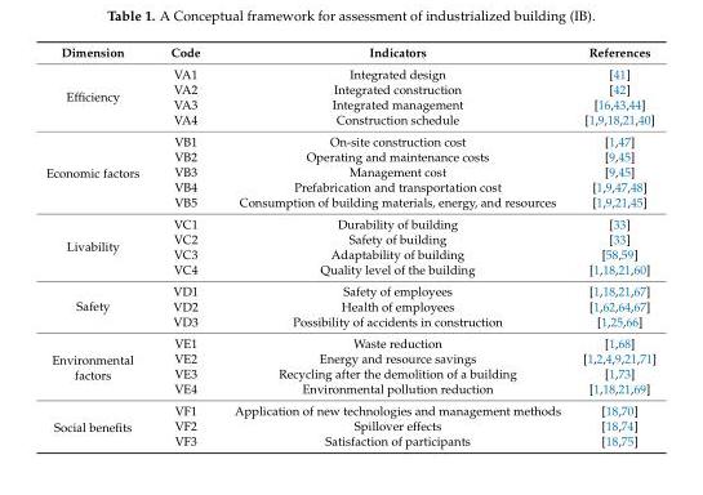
<table><thead><tr><td>Dimension</td><td>Code</td><td>Indicators</td><td>References</td></tr></thead><tbody><tr><td rowspan="4">Efficiency</td><td>VA1</td><td>Integrated design</td><td>[41]</td></tr><tr><td>VA2</td><td>Integrated construction</td><td>[42]</td></tr><tr><td>VA3</td><td>Integrated management</td><td>[16,43,44]</td></tr><tr><td>VA4</td><td>Construction schedule</td><td>[1,9,18,21,40]</td></tr><tr><td rowspan="5">Economic factors</td><td>VB1</td><td>On-site construction cost</td><td>[1,47]</td></tr><tr><td>VB2</td><td>Operating and maintenance costs</td><td>[9,45]</td></tr><tr><td>VB3</td><td>Management cost</td><td>[9,45]</td></tr><tr><td>VB4</td><td>Prefabrication and transportation cost</td><td>[1,9,47,48]</td></tr><tr><td>VB5</td><td>Consumption of building materials, energy, and resources</td><td>[1,9,21,45]</td></tr><tr><td rowspan="4">Livability</td><td>VC1</td><td>Durability of building</td><td>[33]</td></tr><tr><td>VC2</td><td>Safety of building</td><td>[33]</td></tr><tr><td>VC3</td><td>Adaptability of building</td><td>[58,59]</td></tr><tr><td>VC4</td><td>Quality level of the building</td><td>[1,18,21,60]</td></tr><tr><td rowspan="3">Safety</td><td>VD1</td><td>Safety of employees</td><td>[1,18,21,67]</td></tr><tr><td>VD2</td><td>Health of employees</td><td>[1,62,64,67]</td></tr><tr><td>VD3</td><td>Possibility of accidents in construction</td><td>[1,25,66]</td></tr><tr><td rowspan="4">Environmental factors</td><td>VE1</td><td>Waste reduction</td><td>[1,68]</td></tr><tr><td>VE2</td><td>Energy and resource savings</td><td>[1,2,4,9,21,71]</td></tr><tr><td>VE3</td><td>Recycling after the demolition of a building</td><td>[1,73]</td></tr><tr><td>VE4</td><td>Environmental pollution reduction</td><td>[1,18,21,69]</td></tr><tr><td rowspan="3">Social benefits</td><td>VF1</td><td>Application of new technologies and management methods</td><td>[18,70]</td></tr><tr><td>VF2</td><td>Spillover effects</td><td>[18,74]</td></tr><tr><td>VF3</td><td>Satisfaction of participants</td><td>[18,75]</td></tr></tbody></table>